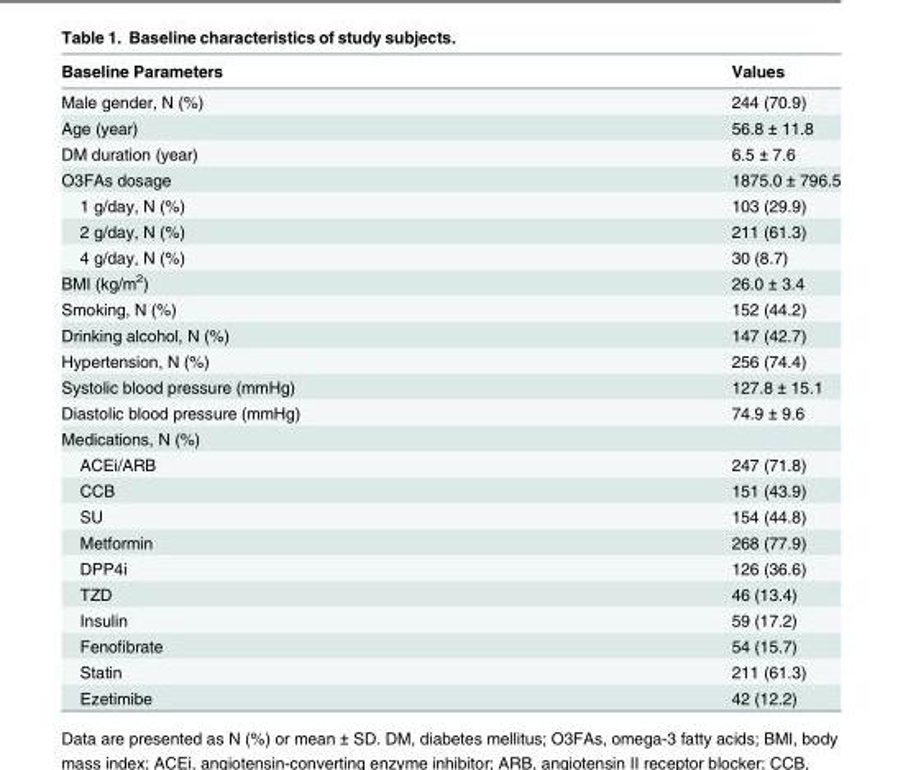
<table><thead><tr><td>Baseline Parameters</td><td>Values</td></tr></thead><tbody><tr><td>Male gender, N (%)</td><td>244 (70.9)</td></tr><tr><td>Age (year)</td><td>56.8 ± 11.8</td></tr><tr><td>DM duration (year)</td><td>6.5 ± 7.6</td></tr><tr><td>O3FAs dosage</td><td>1875.0 ± 796.5</td></tr><tr><td>1 g/day, N (%)</td><td>103 (29.9)</td></tr><tr><td>2 g/day, N (%)</td><td>211 (61.3)</td></tr><tr><td>4 g/day, N (%)</td><td>30 (8.7)</td></tr><tr><td>BMI (kg/m<sup>2</sup>)</td><td>26.0 ± 3.4</td></tr><tr><td>Smoking, N (%)</td><td>152 (44.2)</td></tr><tr><td>Drinking alcohol, N (%)</td><td>147 (42.7)</td></tr><tr><td>Hypertension, N (%)</td><td>256 (74.4)</td></tr><tr><td>Systolic blood pressure (mmHg)</td><td>127.8 ± 15.1</td></tr><tr><td>Diastolic blood pressure (mmHg)</td><td>74.9 ± 9.6</td></tr><tr><td colspan="2">Medications, N (%)</td></tr><tr><td>ACEi/ARB</td><td>247 (71.8)</td></tr><tr><td>CCB</td><td>151 (43.9)</td></tr><tr><td>SU</td><td>154 (44.8)</td></tr><tr><td>Metformin</td><td>268 (77.9)</td></tr><tr><td>DPP4i</td><td>126 (36.6)</td></tr><tr><td>TZD</td><td>46 (13.4)</td></tr><tr><td>Insulin</td><td>59 (17.2)</td></tr><tr><td>Fenofibrate</td><td>54 (15.7)</td></tr><tr><td>Statin</td><td>211 (61.3)</td></tr><tr><td>Ezetimibe</td><td>42 (12.2)</td></tr></tbody></table>